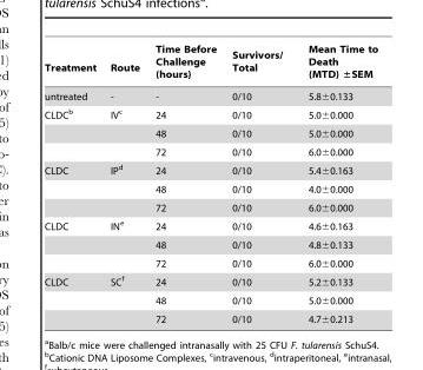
<table><thead><tr><td>Treatment</td><td>Route</td><td>Time Before Challenge (hours)</td><td>Survivors/ Total</td><td>Mean Time to Death (MTD) ±SEM</td></tr></thead><tbody><tr><td>untreated</td><td>-</td><td>-</td><td>0/10</td><td>5.8±0.133</td></tr><tr><td rowspan="3">CLDC<sup>b</sup></td><td>IV<sup>c</sup></td><td>24</td><td>0/10</td><td>5.0±0.000</td></tr><tr><td></td><td>48</td><td>0/10</td><td>5.0±0.000</td></tr><tr><td></td><td>72</td><td>0/10</td><td>6.0±0.000</td></tr><tr><td rowspan="3">CLDC</td><td>IP<sup>d</sup></td><td>24</td><td>0/10</td><td>5.4±0.163</td></tr><tr><td></td><td>48</td><td>0/10</td><td>4.0±0.000</td></tr><tr><td></td><td>72</td><td>0/10</td><td>6.0±0.000</td></tr><tr><td rowspan="3">CLDC</td><td>IN<sup>e</sup></td><td>24</td><td>0/10</td><td>4.6±0.163</td></tr><tr><td></td><td>48</td><td>0/10</td><td>4.8±0.133</td></tr><tr><td></td><td>72</td><td>0/10</td><td>6.0±0.000</td></tr><tr><td rowspan="3">CLDC</td><td>SC<sup>f</sup></td><td>24</td><td>0/10</td><td>5.2±0.133</td></tr><tr><td></td><td>48</td><td>0/10</td><td>5.0±0.000</td></tr><tr><td></td><td>72</td><td>0/10</td><td>4.7±0.213</td></tr></tbody></table>